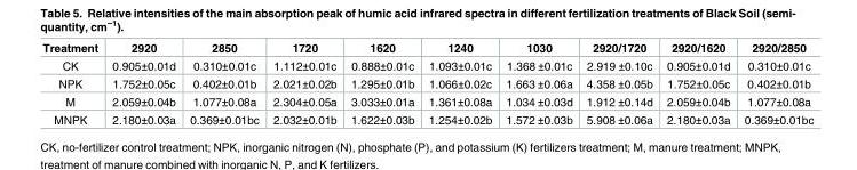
<table><thead><tr><td>Treatment</td><td>2920</td><td>2850</td><td>1720</td><td>1620</td><td>1240</td><td>1030</td><td>2920/1720</td><td>2920/1620</td><td>2920/2850</td></tr></thead><tbody><tr><td>CK</td><td>0.905±0.01d</td><td>0.310±0.01c</td><td>1.112±0.01c</td><td>0.888±0.01c</td><td>1.093±0.01c</td><td>1.368 ±0.01c</td><td>2.919 ±0.10c</td><td>0.905±0.01d</td><td>0.310±0.01c</td></tr><tr><td>NPK</td><td>1.752±0.05c</td><td>0.402±0.01b</td><td>2.021±0.02b</td><td>1.295±0.01b</td><td>1.066±0.02c</td><td>1.663 ±0.06a</td><td>4.358 ±0.05b</td><td>1.752±0.05c</td><td>0.402±0.01b</td></tr><tr><td>M</td><td>2.059±0.04b</td><td>1.077±0.08a</td><td>2.304±0.05a</td><td>3.033±0.01a</td><td>1.361±0.08a</td><td>1.034 ±0.03d</td><td>1.912 ±0.14d</td><td>2.059±0.04b</td><td>1.077±0.08a</td></tr><tr><td>MNPK</td><td>2.180±0.03a</td><td>0.369±0.01bc</td><td>2.032±0.01b</td><td>1.622±0.03b</td><td>1.254±0.02b</td><td>1.572 ±0.03b</td><td>5.908 ±0.06a</td><td>2.180±0.03a</td><td>0.369±0.01bc</td></tr></tbody></table>